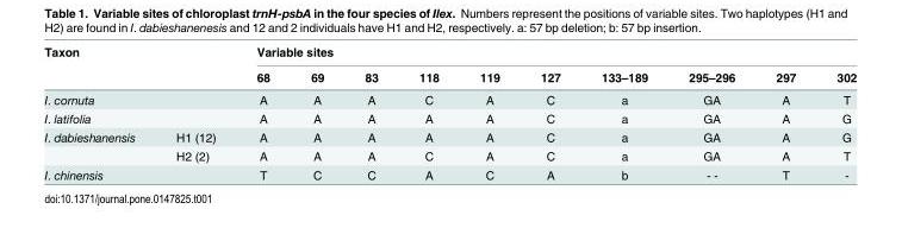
<table><thead><tr><td rowspan="2" colspan="2">Taxon</td><td colspan="10">Variable sites</td></tr><tr><td rowspan="2">68 A</td><td rowspan="2">69 A</td><td rowspan="2">83 A</td><td rowspan="2">118 C</td><td rowspan="2">119 A</td><td rowspan="2">127 C</td><td rowspan="2">133–189 a</td><td rowspan="2">295–296 GA</td><td rowspan="2">297 A</td><td rowspan="2">302 T</td></tr><tr><td>I. cornuta</td><td></td></tr></thead><tbody><tr><td>I. latifolia</td><td></td><td>A</td><td>A</td><td>A</td><td>A</td><td>A</td><td>C</td><td>a</td><td>GA</td><td>A</td><td>G</td></tr><tr><td rowspan="2">I. dabieshanensis</td><td>H1 (12)</td><td>A</td><td>A</td><td>A</td><td>A</td><td>A</td><td>C</td><td>a</td><td>GA</td><td>A</td><td>G</td></tr><tr><td>H2 (2)</td><td>A</td><td>A</td><td>A</td><td>C</td><td>A</td><td>C</td><td>a</td><td>GA</td><td>A</td><td>T</td></tr><tr><td colspan="2">I. chinensis</td><td>T</td><td>C</td><td>C</td><td>A</td><td>C</td><td>A</td><td>b</td><td>- -</td><td>T</td><td>-</td></tr></tbody></table>